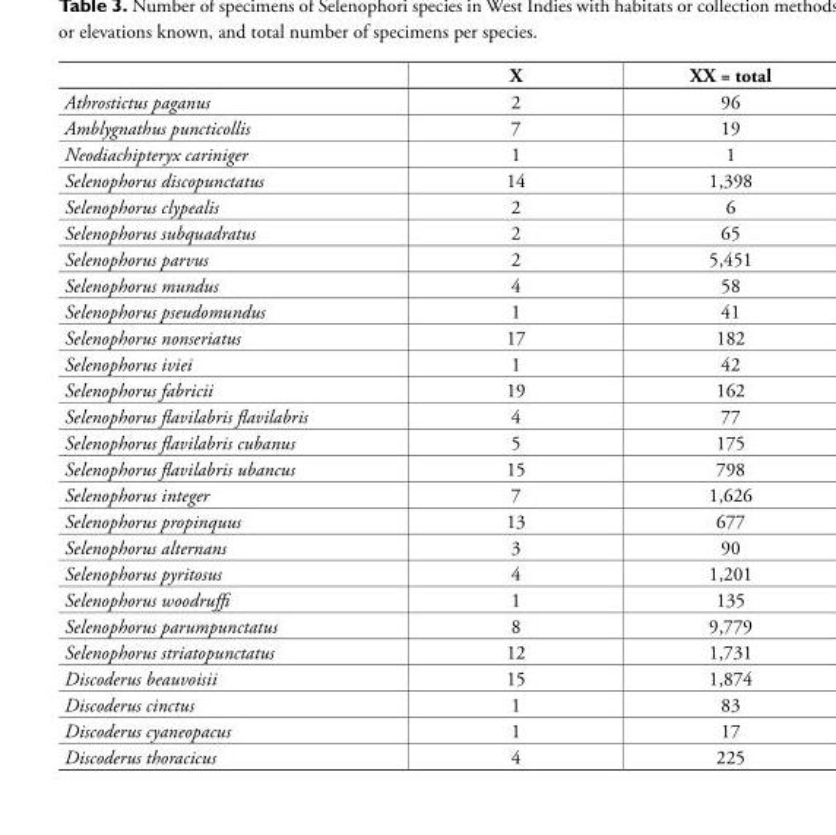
<table><thead><tr><td></td><td>X</td><td>XX = total</td></tr></thead><tbody><tr><td>Athrostictus paganus</td><td>2</td><td>96</td></tr><tr><td>Amblygnathus puncticollis</td><td>7</td><td>19</td></tr><tr><td>Neodiachipteryx cariniger</td><td>1</td><td>1</td></tr><tr><td>Selenophorus discopunctatus</td><td>14</td><td>1,398</td></tr><tr><td>Selenophorus clypealis</td><td>2</td><td>6</td></tr><tr><td>Selenophorus subquadratus</td><td>2</td><td>65</td></tr><tr><td>Selenophorus parvus</td><td>2</td><td>5,451</td></tr><tr><td>Selenophorus mundus</td><td>4</td><td>58</td></tr><tr><td>Selenophorus pseudomundus</td><td>1</td><td>41</td></tr><tr><td>Selenophorus nonseriatus</td><td>17</td><td>182</td></tr><tr><td>Selenophorus iviei</td><td>1</td><td>42</td></tr><tr><td>Selenophorus fabricii</td><td>19</td><td>162</td></tr><tr><td>Selenophorus flavilabris flavilabris</td><td>4</td><td>77</td></tr><tr><td>Selenophorus flavilabris cubanus</td><td>5</td><td>175</td></tr><tr><td>Selenophorus flavilabris ubancus</td><td>15</td><td>798</td></tr><tr><td>Selenophorus integer</td><td>7</td><td>1,626</td></tr><tr><td>Selenophorus propinquus</td><td>13</td><td>677</td></tr><tr><td>Selenophorus alternans</td><td>3</td><td>90</td></tr><tr><td>Selenophorus pyritosus</td><td>4</td><td>1,201</td></tr><tr><td>Selenophorus woodruffi</td><td>1</td><td>135</td></tr><tr><td>Selenophorus parumpunctatus</td><td>8</td><td>9,779</td></tr><tr><td>Selenophorus striatopunctatus</td><td>12</td><td>1,731</td></tr><tr><td>Discoderus beauvoisii</td><td>15</td><td>1,874</td></tr><tr><td>Discoderus cinctus</td><td>1</td><td>83</td></tr><tr><td>Discoderus cyaneopacus</td><td>1</td><td>17</td></tr><tr><td>Discoderus thoracicus</td><td>4</td><td>225</td></tr></tbody></table>